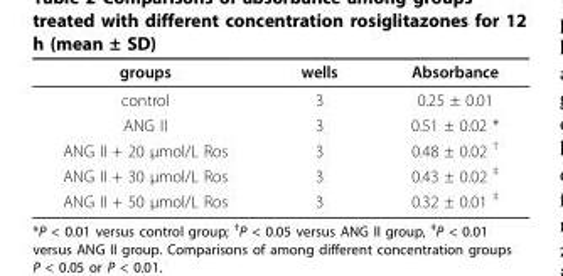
<table><thead><tr><td>groups</td><td>wells</td><td>Absorbance</td></tr></thead><tbody><tr><td>control</td><td>3</td><td>0.25 ± 0.01</td></tr><tr><td>ANG II</td><td>3</td><td>0.51 ± 0.02 *</td></tr><tr><td>ANG II + 20 μmol/L Ros</td><td>3</td><td>0.48 ± 0.02 <sup>†</sup></td></tr><tr><td>ANG II + 30 μmol/L Ros</td><td>3</td><td>0.43 ± 0.02 <sup>‡</sup></td></tr><tr><td>ANG II + 50 μmol/L Ros</td><td>3</td><td>0.32 ± 0.01 <sup>‡</sup></td></tr></tbody></table>